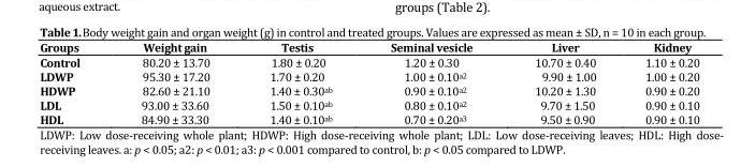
<table><thead><tr><td>Groups</td><td>Weight gain</td><td>Testis</td><td>Seminal vesicle</td><td>Liver</td><td>Kidney</td></tr></thead><tbody><tr><td>Control</td><td>80.20 ± 13.70</td><td>1.80 ± 0.20</td><td>1.20 ± 0.30</td><td>10.70 ± 0.40</td><td>1.10 ± 0.20</td></tr><tr><td>LDWP</td><td>95.30 ± 17.20</td><td>1.70 ± 0.20</td><td>1.00 ± 0.10<sup>a2</sup></td><td>9.90 ± 1.00</td><td>1.00 ± 0.20</td></tr><tr><td>HDWP</td><td>82.60 ± 21.10</td><td>1.40 ± 0.30<sup>ab</sup></td><td>0.90 ± 0.10<sup>a2</sup></td><td>10.20 ± 1.30</td><td>0.90 ± 0.20</td></tr><tr><td>LDL</td><td>93.00 ± 33.60</td><td>1.50 ± 0.10<sup>ab</sup></td><td>0.80 ± 0.10<sup>a2</sup></td><td>9.70 ± 1.50</td><td>0.90 ± 0.10</td></tr><tr><td>HDL</td><td>84.90 ± 33.30</td><td>1.40 ± 0.10<sup>ab</sup></td><td>0.70 ± 0.20<sup>a3</sup></td><td>9.50 ± 0.90</td><td>0.90 ± 0.10</td></tr></tbody></table>